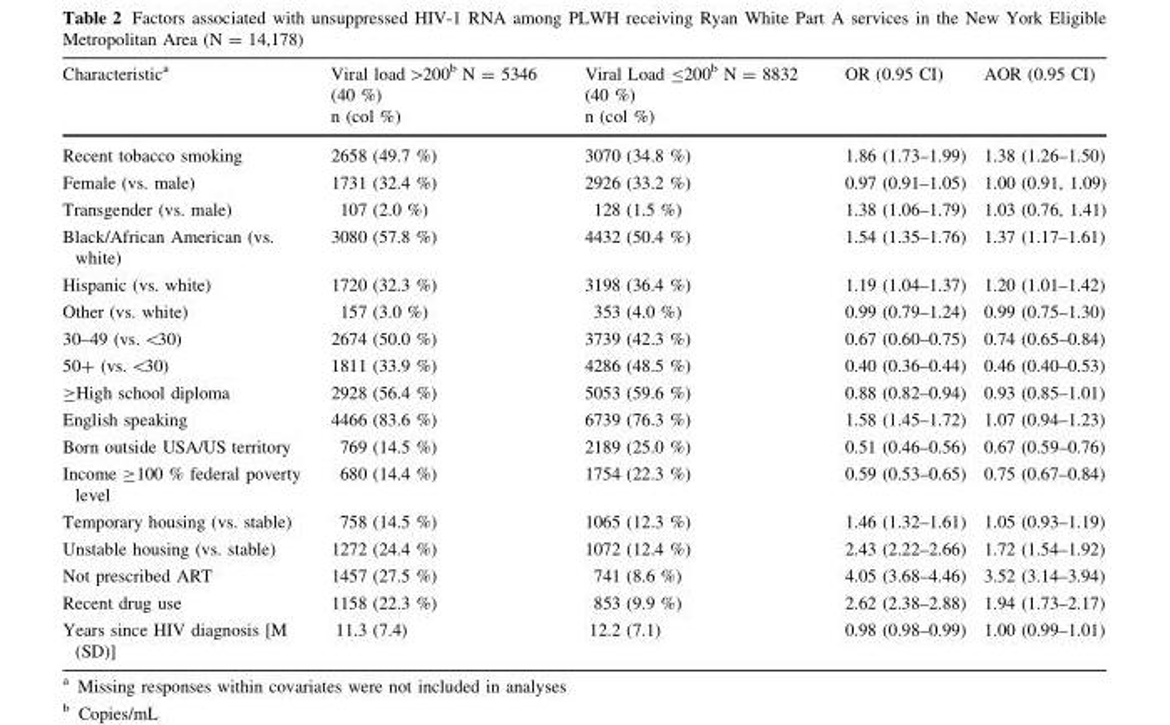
<table><thead><tr><td rowspan="2">Characteristic<sup>a</sup></td><td rowspan="2">Viral load &gt;200<sup>b</sup> N = 5346 (40 %) n (col %)</td><td rowspan="2">Viral Load ≤200<sup>b</sup> N = 8832 (40 %) n (col %)</td><td rowspan="2">OR (0.95 CI)</td><td rowspan="2">AOR (0.95 CI)</td></tr><tr></tr></thead><tbody><tr><td>Recent tobacco smoking</td><td>2658 (49.7 %)</td><td>3070 (34.8 %)</td><td>1.86 (1.73–1.99)</td><td>1.38 (1.26–1.50)</td></tr><tr><td>Female (vs. male)</td><td>1731 (32.4 %)</td><td>2926 (33.2 %)</td><td>0.97 (0.91–1.05)</td><td>1.00 (0.91, 1.09)</td></tr><tr><td>Transgender (vs. male)</td><td>107 (2.0 %)</td><td>128 (1.5 %)</td><td>1.38 (1.06–1.79)</td><td>1.03 (0.76, 1.41)</td></tr><tr><td>Black/African American (vs. white)</td><td>3080 (57.8 %)</td><td>4432 (50.4 %)</td><td>1.54 (1.35–1.76)</td><td>1.37 (1.17–1.61)</td></tr><tr><td>Hispanic (vs. white)</td><td>1720 (32.3 %)</td><td>3198 (36.4 %)</td><td>1.19 (1.04–1.37)</td><td>1.20 (1.01–1.42)</td></tr><tr><td>Other (vs. white)</td><td>157 (3.0 %)</td><td>353 (4.0 %)</td><td>0.99 (0.79–1.24)</td><td>0.99 (0.75–1.30)</td></tr><tr><td>30–49 (vs. &lt;30)</td><td>2674 (50.0 %)</td><td>3739 (42.3 %)</td><td>0.67 (0.60–0.75)</td><td>0.74 (0.65–0.84)</td></tr><tr><td>50+ (vs. &lt;30)</td><td>1811 (33.9 %)</td><td>4286 (48.5 %)</td><td>0.40 (0.36–0.44)</td><td>0.46 (0.40–0.53)</td></tr><tr><td>≥High school diploma</td><td>2928 (56.4 %)</td><td>5053 (59.6 %)</td><td>0.88 (0.82–0.94)</td><td>0.93 (0.85–1.01)</td></tr><tr><td>English speaking</td><td>4466 (83.6 %)</td><td>6739 (76.3 %)</td><td>1.58 (1.45–1.72)</td><td>1.07 (0.94–1.23)</td></tr><tr><td>Born outside USA/US territory</td><td>769 (14.5 %)</td><td>2189 (25.0 %)</td><td>0.51 (0.46–0.56)</td><td>0.67 (0.59–0.76)</td></tr><tr><td>Income ≥100 % federal poverty level</td><td>680 (14.4 %)</td><td>1754 (22.3 %)</td><td>0.59 (0.53–0.65)</td><td>0.75 (0.67–0.84)</td></tr><tr><td>Temporary housing (vs. stable)</td><td>758 (14.5 %)</td><td>1065 (12.3 %)</td><td>1.46 (1.32–1.61)</td><td>1.05 (0.93–1.19)</td></tr><tr><td>Unstable housing (vs. stable)</td><td>1272 (24.4 %)</td><td>1072 (12.4 %)</td><td>2.43 (2.22–2.66)</td><td>1.72 (1.54–1.92)</td></tr><tr><td>Not prescribed ART</td><td>1457 (27.5 %)</td><td>741 (8.6 %)</td><td>4.05 (3.68–4.46)</td><td>3.52 (3.14–3.94)</td></tr><tr><td>Recent drug use</td><td>1158 (22.3 %)</td><td>853 (9.9 %)</td><td>2.62 (2.38–2.88)</td><td>1.94 (1.73–2.17)</td></tr><tr><td>Years since HIV diagnosis [M (SD)]</td><td>11.3 (7.4)</td><td>12.2 (7.1)</td><td>0.98 (0.98–0.99)</td><td>1.00 (0.99–1.01)</td></tr></tbody></table>